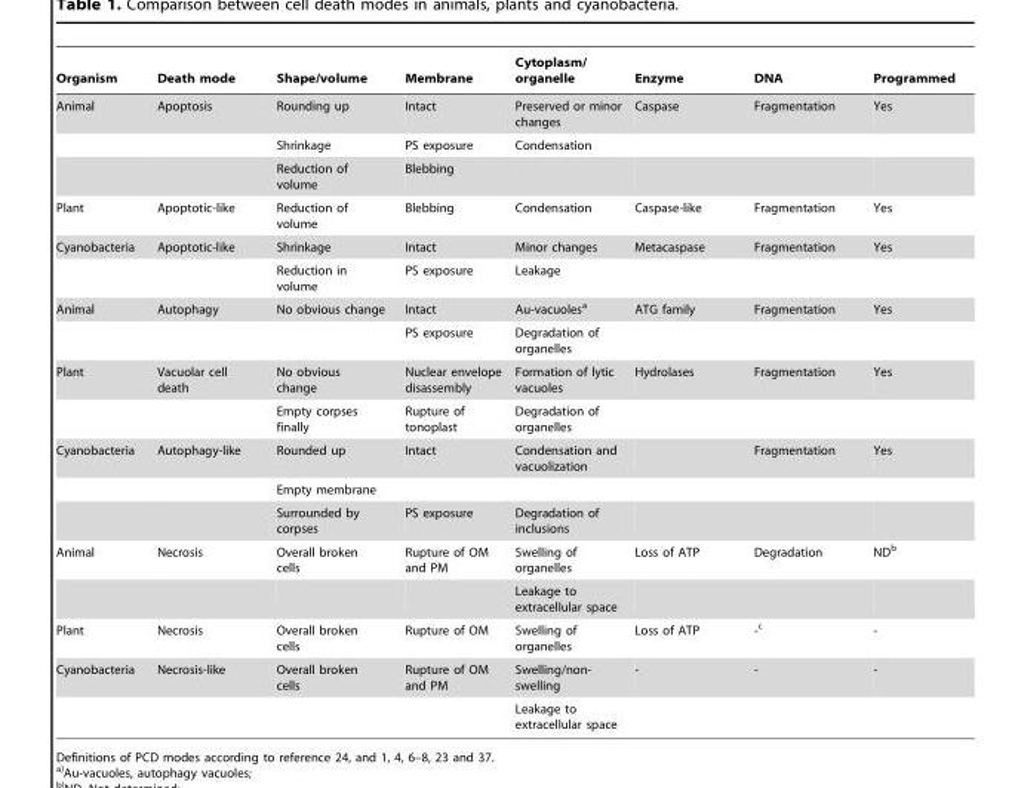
<table><thead><tr><td>Organism</td><td>Death mode</td><td>Shape/volume</td><td>Membrane</td><td>Cytoplasm/ organelle</td><td>Enzyme</td><td>DNA</td><td>Programmed</td></tr></thead><tbody><tr><td rowspan="3">Animal</td><td>Apoptosis</td><td>Rounding up</td><td>Intact</td><td>Preserved or minor changes</td><td>Caspase</td><td>Fragmentation</td><td>Yes</td></tr><tr><td></td><td>Shrinkage</td><td>PS exposure</td><td>Condensation</td><td></td><td></td><td></td></tr><tr><td></td><td>Reduction of volume</td><td>Blebbing</td><td></td><td></td><td></td><td></td></tr><tr><td>Plant</td><td>Apoptotic-like</td><td>Reduction of volume</td><td>Blebbing</td><td>Condensation</td><td>Caspase-like</td><td>Fragmentation</td><td>Yes</td></tr><tr><td rowspan="2">Cyanobacteria</td><td>Apoptotic-like</td><td>Shrinkage</td><td>Intact</td><td>Minor changes</td><td>Metacaspase</td><td>Fragmentation</td><td>Yes</td></tr><tr><td></td><td>Reduction in volume</td><td>PS exposure</td><td>Leakage</td><td></td><td></td><td></td></tr><tr><td rowspan="2">Animal</td><td>Autophagy</td><td>No obvious change</td><td>Intact</td><td>Au-vacuoles<sup>a</sup></td><td>ATG family</td><td>Fragmentation</td><td>Yes</td></tr><tr><td></td><td></td><td>PS exposure</td><td>Degradation of organelles</td><td></td><td></td><td></td></tr><tr><td rowspan="2">Plant</td><td>Vacuolar cell death</td><td>No obvious change</td><td>Nuclear envelope disassembly</td><td>Formation of lytic vacuoles</td><td>Hydrolases</td><td>Fragmentation</td><td>Yes</td></tr><tr><td></td><td>Empty corpses finally</td><td>Rupture of tonoplast</td><td>Degradation of organelles</td><td></td><td></td><td></td></tr><tr><td rowspan="3">Cyanobacteria</td><td>Autophagy-like</td><td>Rounded up</td><td>Intact</td><td>Condensation and vacuolization</td><td></td><td>Fragmentation</td><td>Yes</td></tr><tr><td></td><td>Empty membrane</td><td></td><td></td><td></td><td></td><td></td></tr><tr><td></td><td>Surrounded by corpses</td><td>PS exposure</td><td>Degradation of inclusions</td><td></td><td></td><td></td></tr><tr><td rowspan="2">Animal</td><td>Necrosis</td><td>Overall broken cells</td><td>Rupture of OM and PM</td><td>Swelling of organelles</td><td>Loss of ATP</td><td>Degradation</td><td>ND<sup>b</sup></td></tr><tr><td></td><td></td><td></td><td>Leakage to extracellular space</td><td></td><td></td><td></td></tr><tr><td>Plant</td><td>Necrosis</td><td>Overall broken cells</td><td>Rupture of OM</td><td>Swelling of organelles</td><td>Loss of ATP</td><td>-<sup>c</sup></td><td>-</td></tr><tr><td rowspan="2">Cyanobacteria</td><td>Necrosis-like</td><td>Overall broken cells</td><td>Rupture of OM and PM</td><td>Swelling/non- swelling</td><td>-</td><td>-</td><td>-</td></tr><tr><td></td><td></td><td></td><td>Leakage to extracellular space</td><td></td><td></td><td></td></tr></tbody></table>